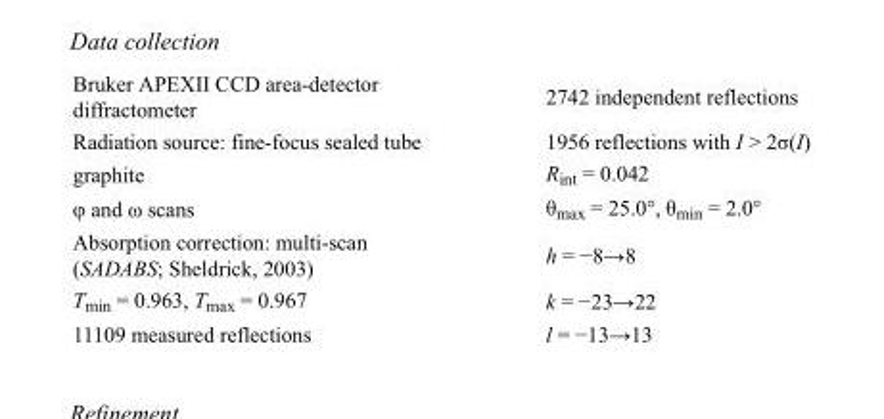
<table><tbody><tr><td>Bruker APEXII CCD area-detector diffractometer</td><td>2742 independent reflections</td></tr><tr><td>Radiation source: fine-focus sealed tube</td><td>1956 reflections with I &gt; 2σ(I)</td></tr><tr><td>graphite</td><td>R<sub>int</sub> = 0.042</td></tr><tr><td>φ and ω scans</td><td>θ<sub>max</sub> = 25.0°, θ<sub>min</sub> = 2.0°</td></tr><tr><td>Absorption correction: multi-scan (SADABS; Sheldrick, 2003)</td><td>h = −8→8</td></tr><tr><td>T<sub>min</sub> = 0.963, T<sub>max</sub> = 0.967</td><td>k = −23→22</td></tr><tr><td>11109 measured reflections</td><td>l = −13→13</td></tr></tbody></table>